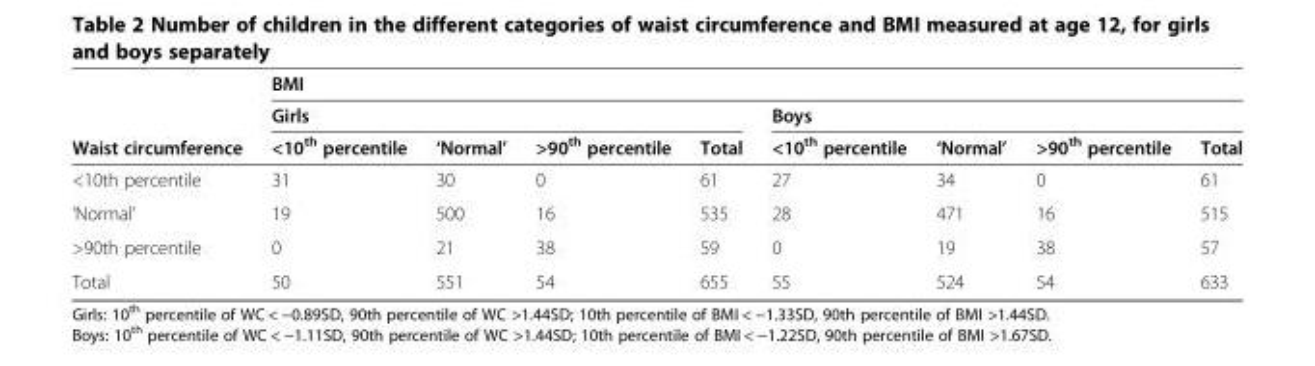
<table><thead><tr><td rowspan="3">Waist circumference</td><td colspan="8">BMI</td></tr><tr><td colspan="4">Girls</td><td colspan="4">Boys</td></tr><tr><td>&lt;10th percentile</td><td>‘Normal’</td><td>&gt;90<sup>th</sup> percentile</td><td>Total</td><td>&lt;10<sup>th</sup> percentile</td><td>‘Normal’</td><td>&gt;90<sup>th</sup> percentile</td><td>Total</td></tr></thead><tbody><tr><td>&lt;10th percentile</td><td>31</td><td>30</td><td>0</td><td>61</td><td>27</td><td>34</td><td>0</td><td>61</td></tr><tr><td>‘Normal’</td><td>19</td><td>500</td><td>16</td><td>535</td><td>28</td><td>471</td><td>16</td><td>515</td></tr><tr><td>&gt;90th percentile</td><td>0</td><td>21</td><td>38</td><td>59</td><td>0</td><td>19</td><td>38</td><td>57</td></tr><tr><td>Total</td><td>50</td><td>551</td><td>54</td><td>655</td><td>55</td><td>524</td><td>54</td><td>633</td></tr></tbody></table>